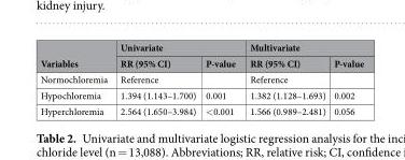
<table><thead><tr><td rowspan="2">Variables</td><td colspan="2">Univariate</td><td colspan="2">Multivariate</td></tr><tr><td>RR (95% CI)</td><td>P-value</td><td>RR (95% CI)</td><td>P-value</td></tr></thead><tbody><tr><td>Normochloremia</td><td>Reference</td><td></td><td>Reference</td><td></td></tr><tr><td>Hypochloremia</td><td>1.394 (1.143–1.700)</td><td>0.001</td><td>1.382 (1.128–1.693)</td><td>0.002</td></tr><tr><td>Hyperchloremia</td><td>2.564 (1.650–3.984)</td><td>&lt;0.001</td><td>1.566 (0.989–2.481)</td><td>0.056</td></tr></tbody></table>